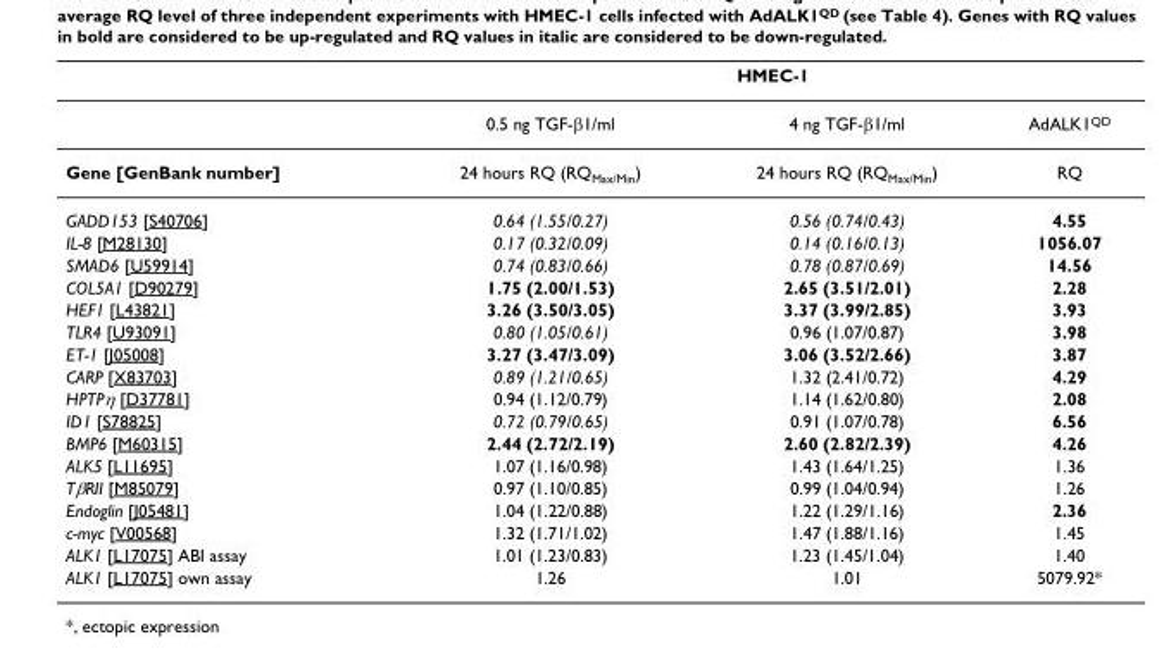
<table><thead><tr><td rowspan="2"></td><td colspan="3">HMEC-1</td></tr><tr><td>0.5 ng TGF-β1/ml</td><td>4 ng TGF-β1/ml</td><td>AdALK1<sup>QD</sup></td></tr></thead><tbody><tr><td>Gene [GenBank number]</td><td>24 hours RQ (RQ<sub>Max/Min</sub>)</td><td>24 hours RQ (RQ<sub>Max/Min</sub>)</td><td>RQ</td></tr><tr><td>GADD153 [S40706]</td><td>0.64 (1.55/0.27)</td><td>0.56 (0.74/0.43)</td><td>4.55</td></tr><tr><td>IL-8 [M28130]</td><td>0.17 (0.32/0.09)</td><td>0.14 (0.16/0.13)</td><td>1056.07</td></tr><tr><td>SMAD6 [U59914]</td><td>0.74 (0.83/0.66)</td><td>0.78 (0.87/0.69)</td><td>14.56</td></tr><tr><td>COL5A1 [D90279]</td><td>1.75 (2.00/1.53)</td><td>2.65 (3.51/2.01)</td><td>2.28</td></tr><tr><td>HEF1 [L43821]</td><td>3.26 (3.50/3.05)</td><td>3.37 (3.99/2.85)</td><td>3.93</td></tr><tr><td>TLR4 [U93091]</td><td>0.80 (1.05/0.61)</td><td>0.96 (1.07/0.87)</td><td>3.98</td></tr><tr><td>ET-1 [J05008]</td><td>3.27 (3.47/3.09)</td><td>3.06 (3.52/2.66)</td><td>3.87</td></tr><tr><td>CARP [X83703]</td><td>0.89 (1.21/0.65)</td><td>1.32 (2.41/0.72)</td><td>4.29</td></tr><tr><td>HPTPη [D37781]</td><td>0.94 (1.12/0.79)</td><td>1.14 (1.62/0.80)</td><td>2.08</td></tr><tr><td>ID1 [S78825]</td><td>0.72 (0.79/0.65)</td><td>0.91 (1.07/0.78)</td><td>6.56</td></tr><tr><td>BMP6 [M60315]</td><td>2.44 (2.72/2.19)</td><td>2.60 (2.82/2.39)</td><td>4.26</td></tr><tr><td>ALK5 [L11695]</td><td>1.07 (1.16/0.98)</td><td>1.43 (1.64/1.25)</td><td>1.36</td></tr><tr><td>TβRII [M85079]</td><td>0.97 (1.10/0.85)</td><td>0.99 (1.04/0.94)</td><td>1.26</td></tr><tr><td>Endoglin [J05481]</td><td>1.04 (1.22/0.88)</td><td>1.22 (1.29/1.16)</td><td>2.36</td></tr><tr><td>c-myc [V00568]</td><td>1.32 (1.71/1.02)</td><td>1.47 (1.88/1.16)</td><td>1.45</td></tr><tr><td>ALK1 [L17075] ABI assay</td><td>1.01 (1.23/0.83)</td><td>1.23 (1.45/1.04)</td><td>1.40</td></tr><tr><td>ALK1 [L17075] own assay</td><td>1.26</td><td>1.01</td><td>5079.92*</td></tr></tbody></table>